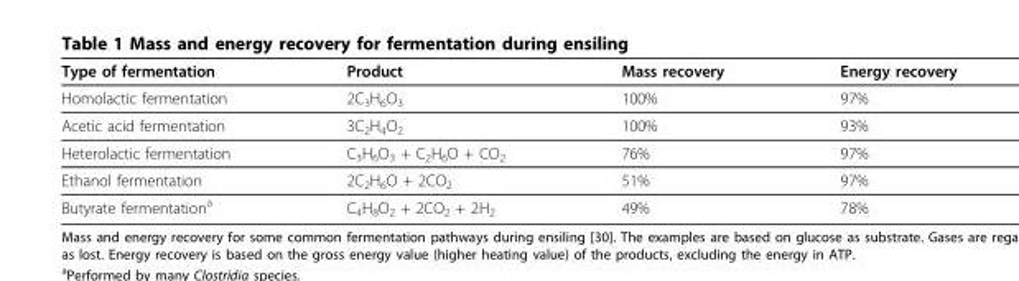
<table><thead><tr><td>Type of fermentation</td><td>Product</td><td>Mass recovery</td><td>Energy recovery</td></tr></thead><tbody><tr><td>Homolactic fermentation</td><td>2C<sub>3</sub>H<sub>6</sub>O<sub>3</sub></td><td>100%</td><td>97%</td></tr><tr><td>Acetic acid fermentation</td><td>3C<sub>2</sub>H<sub>4</sub>O<sub>2</sub></td><td>100%</td><td>93%</td></tr><tr><td>Heterolactic fermentation</td><td>C<sub>3</sub>H<sub>6</sub>O<sub>3</sub> + C<sub>2</sub>H<sub>6</sub>O + CO<sub>2</sub></td><td>76%</td><td>97%</td></tr><tr><td>Ethanol fermentation</td><td>2C<sub>2</sub>H<sub>6</sub>O + 2CO<sub>2</sub></td><td>51%</td><td>97%</td></tr><tr><td>Butyrate fermentation<sup>a</sup></td><td>C<sub>4</sub>H<sub>8</sub>O<sub>2</sub> + 2CO<sub>2</sub> + 2H<sub>2</sub></td><td>49%</td><td>78%</td></tr></tbody></table>